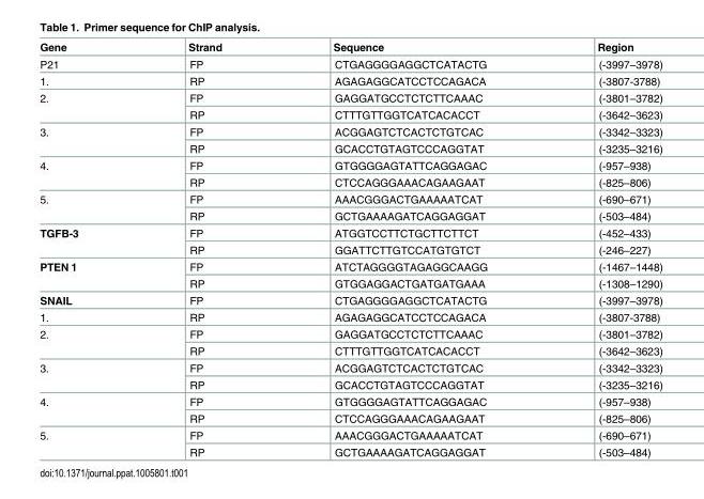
<table><thead><tr><td>Gene</td><td>Strand</td><td>Sequence</td><td>Region</td></tr></thead><tbody><tr><td>P21</td><td>FP</td><td>CTGAGGGGAGGCTCATACTG</td><td>(-3997–3978)</td></tr><tr><td>1.</td><td>RP</td><td>AGAGAGGCATCCTCCAGACA</td><td>(-3807-3788)</td></tr><tr><td rowspan="2">2.</td><td>FP</td><td>GAGGATGCCTCTCTTCAAAC</td><td>(-3801–3782)</td></tr><tr><td>RP</td><td>CTTTGTTGGTCATCACACCT</td><td>(-3642–3623)</td></tr><tr><td rowspan="2">3.</td><td>FP</td><td>ACGGAGTCTCACTCTGTCAC</td><td>(-3342–3323)</td></tr><tr><td>RP</td><td>GCACCTGTAGTCCCAGGTAT</td><td>(-3235–3216)</td></tr><tr><td rowspan="2">4.</td><td>FP</td><td>GTGGGGAGTATTCAGGAGAC</td><td>(-957–938)</td></tr><tr><td>RP</td><td>CTCCAGGGAAACAGAAGAAT</td><td>(-825–806)</td></tr><tr><td rowspan="2">5.</td><td>FP</td><td>AAACGGGACTGAAAAATCAT</td><td>(-690–671)</td></tr><tr><td>RP</td><td>GCTGAAAAGATCAGGAGGAT</td><td>(-503–484)</td></tr><tr><td rowspan="2">TGFB-3</td><td>FP</td><td>ATGGTCCTTCTGCTTCTTCT</td><td>(-452–433)</td></tr><tr><td>RP</td><td>GGATTCTTGTCCATGTGTCT</td><td>(-246–227)</td></tr><tr><td rowspan="2">PTEN 1</td><td>FP</td><td>ATCTAGGGGTAGAGGCAAGG</td><td>(-1467–1448)</td></tr><tr><td>RP</td><td>GTGGAGGACTGATGATGAAA</td><td>(-1308–1290)</td></tr><tr><td>SNAIL</td><td>FP</td><td>CTGAGGGGAGGCTCATACTG</td><td>(-3997–3978)</td></tr><tr><td>1.</td><td>RP</td><td>AGAGAGGCATCCTCCAGACA</td><td>(-3807-3788)</td></tr><tr><td rowspan="2">2.</td><td>FP</td><td>GAGGATGCCTCTCTTCAAAC</td><td>(-3801–3782)</td></tr><tr><td>RP</td><td>CTTTGTTGGTCATCACACCT</td><td>(-3642–3623)</td></tr><tr><td rowspan="2">3.</td><td>FP</td><td>ACGGAGTCTCACTCTGTCAC</td><td>(-3342–3323)</td></tr><tr><td>RP</td><td>GCACCTGTAGTCCCAGGTAT</td><td>(-3235–3216)</td></tr><tr><td rowspan="2">4.</td><td>FP</td><td>GTGGGGAGTATTCAGGAGAC</td><td>(-957–938)</td></tr><tr><td>RP</td><td>CTCCAGGGAAACAGAAGAAT</td><td>(-825–806)</td></tr><tr><td rowspan="2">5.</td><td>FP</td><td>AAACGGGACTGAAAAATCAT</td><td>(-690–671)</td></tr><tr><td>RP</td><td>GCTGAAAAGATCAGGAGGAT</td><td>(-503–484)</td></tr></tbody></table>